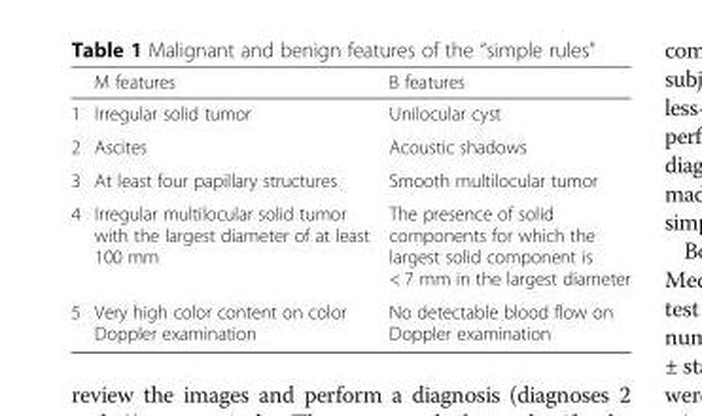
<table><thead><tr><td></td><td>M features</td><td>B features</td></tr></thead><tbody><tr><td>1</td><td>Irregular solid tumor</td><td>Unilocular cyst</td></tr><tr><td>2</td><td>Ascites</td><td>Acoustic shadows</td></tr><tr><td>3</td><td>At least four papillary structures</td><td>Smooth multilocular tumor</td></tr><tr><td>4</td><td>Irregular multilocular solid tumor with the largest diameter of at least 100 mm</td><td>The presence of solid components for which the largest solid component is &lt; 7 mm in the largest diameter</td></tr><tr><td>5</td><td>Very high color content on color Doppler examination</td><td>No detectable blood flow on Doppler examination</td></tr></tbody></table>